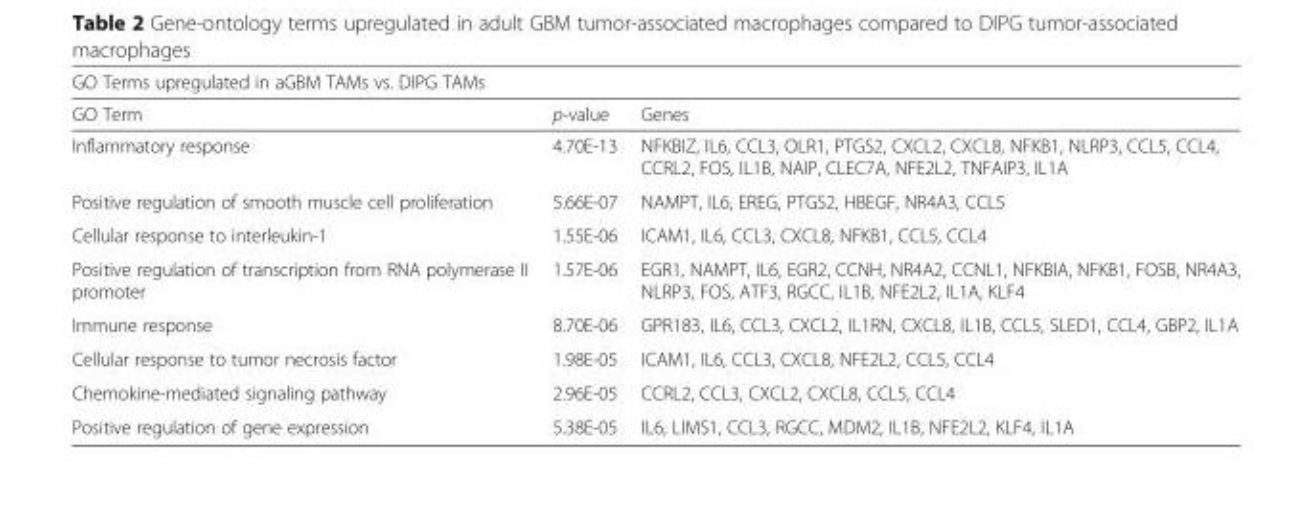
<table><thead><tr><td colspan="3">GO Terms upregulated in aGBM TAMs vs. DIPG TAMs</td></tr><tr><td>GO Term</td><td>p-value</td><td>Genes</td></tr></thead><tbody><tr><td>Inflammatory response</td><td>4.70E-13</td><td>NFKBIZ, IL6, CCL3, OLR1, PTGS2, CXCL2, CXCL8, NFKB1, NLRP3, CCL5, CCL4, CCRL2, FOS, IL1B, NAIP, CLEC7A, NFE2L2, TNFAIP3, IL1A</td></tr><tr><td>Positive regulation of smooth muscle cell proliferation</td><td>5.66E-07</td><td>NAMPT, IL6, EREG, PTGS2, HBEGF, NR4A3, CCL5</td></tr><tr><td>Cellular response to interleukin-1</td><td>1.55E-06</td><td>ICAM1, IL6, CCL3, CXCL8, NFKB1, CCL5, CCL4</td></tr><tr><td>Positive regulation of transcription from RNA polymerase II promoter</td><td>1.57E-06</td><td>EGR1, NAMPT, IL6, EGR2, CCNH, NR4A2, CCNL1, NFKBIA, NFKB1, FOSB, NR4A3, NLRP3, FOS, ATF3, RGCC, IL1B, NFE2L2, IL1A, KLF4</td></tr><tr><td>Immune response</td><td>8.70E-06</td><td>GPR183, IL6, CCL3, CXCL2, IL1RN, CXCL8, IL1B, CCL5, SLED1, CCL4, GBP2, IL1A</td></tr><tr><td>Cellular response to tumor necrosis factor</td><td>1.98E-05</td><td>ICAM1, IL6, CCL3, CXCL8, NFE2L2, CCL5, CCL4</td></tr><tr><td>Chemokine-mediated signaling pathway</td><td>2.96E-05</td><td>CCRL2, CCL3, CXCL2, CXCL8, CCL5, CCL4</td></tr><tr><td>Positive regulation of gene expression</td><td>5.38E-05</td><td>IL6, LIMS1, CCL3, RGCC, MDM2, IL1B, NFE2L2, KLF4, IL1A</td></tr></tbody></table>